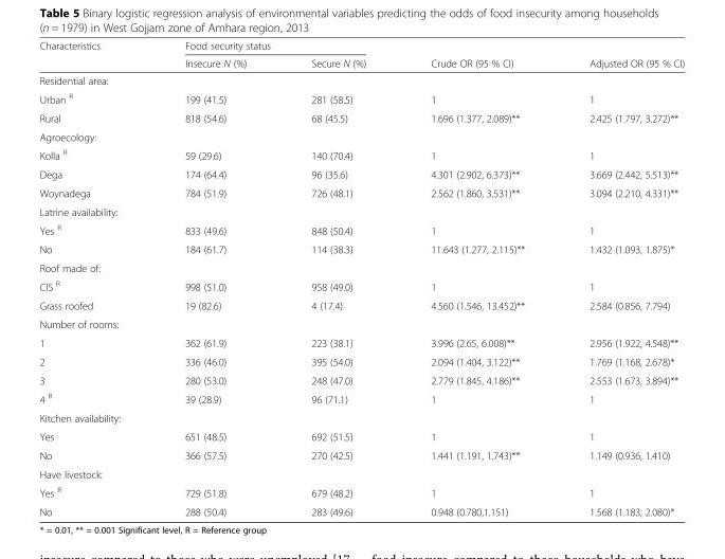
<table><thead><tr><td rowspan="2">Characteristics</td><td colspan="2">Food security status</td><td rowspan="2">Crude OR (95 % CI)</td><td rowspan="2">Adjusted OR (95 % CI)</td></tr><tr><td>Insecure N (%)</td><td>Secure N (%)</td></tr></thead><tbody><tr><td colspan="5">Residential area:</td></tr><tr><td>Urban <sup>R</sup></td><td>199 (41.5)</td><td>281 (58.5)</td><td>1</td><td>1</td></tr><tr><td>Rural</td><td>818 (54.6)</td><td>68 (45.5)</td><td>1.696 (1.377, 2.089)**</td><td>2.425 (1.797, 3.272)**</td></tr><tr><td colspan="5">Agroecology:</td></tr><tr><td>Kolla <sup>R</sup></td><td>59 (29.6)</td><td>140 (70.4)</td><td>1</td><td>1</td></tr><tr><td>Dega</td><td>174 (64.4)</td><td>96 (35.6)</td><td>4.301 (2.902, 6.373)**</td><td>3.669 (2.442, 5.513)**</td></tr><tr><td>Woynadega</td><td>784 (51.9)</td><td>726 (48.1)</td><td>2.562 (1.860, 3.531)**</td><td>3.094 (2.210, 4.331)**</td></tr><tr><td colspan="5">Latrine availability:</td></tr><tr><td>Yes <sup>R</sup></td><td>833 (49.6)</td><td>848 (50.4)</td><td>1</td><td>1</td></tr><tr><td>No</td><td>184 (61.7)</td><td>114 (38.3)</td><td>11.643 (1.277, 2.115)**</td><td>1.432 (1.093, 1.875)*</td></tr><tr><td colspan="5">Roof made of:</td></tr><tr><td>CIS <sup>R</sup></td><td>998 (51.0)</td><td>958 (49.0)</td><td>1</td><td>1</td></tr><tr><td>Grass roofed</td><td>19 (82.6)</td><td>4 (17.4)</td><td>4.560 (1.546, 13.452)**</td><td>2.584 (0.856, 7.794)</td></tr><tr><td colspan="5">Number of rooms:</td></tr><tr><td>1</td><td>362 (61.9)</td><td>223 (38.1)</td><td>3.996 (2.65, 6.008)**</td><td>2.956 (1.922, 4.548)**</td></tr><tr><td>2</td><td>336 (46.0)</td><td>395 (54.0)</td><td>2.094 (1.404, 3.122)**</td><td>1.769 (1.168, 2.678)*</td></tr><tr><td>3</td><td>280 (53.0)</td><td>248 (47.0)</td><td>2.779 (1.845, 4.186)**</td><td>2.553 (1.673, 3.894)**</td></tr><tr><td>4 <sup>R</sup></td><td>39 (28.9)</td><td>96 (71.1)</td><td>1</td><td>1</td></tr><tr><td colspan="5">Kitchen availability:</td></tr><tr><td>Yes</td><td>651 (48.5)</td><td>692 (51.5)</td><td>1</td><td>1</td></tr><tr><td>No</td><td>366 (57.5)</td><td>270 (42.5)</td><td>1.441 (1.191, 1.743)**</td><td>1.149 (0.936, 1.410)</td></tr><tr><td colspan="5">Have livestock:</td></tr><tr><td>Yes <sup>R</sup></td><td>729 (51.8)</td><td>679 (48.2)</td><td>1</td><td>1</td></tr><tr><td>No</td><td>288 (50.4)</td><td>283 (49.6)</td><td>0.948 (0.780,1.151)</td><td>1.568 (1.183, 2.080)*</td></tr></tbody></table>